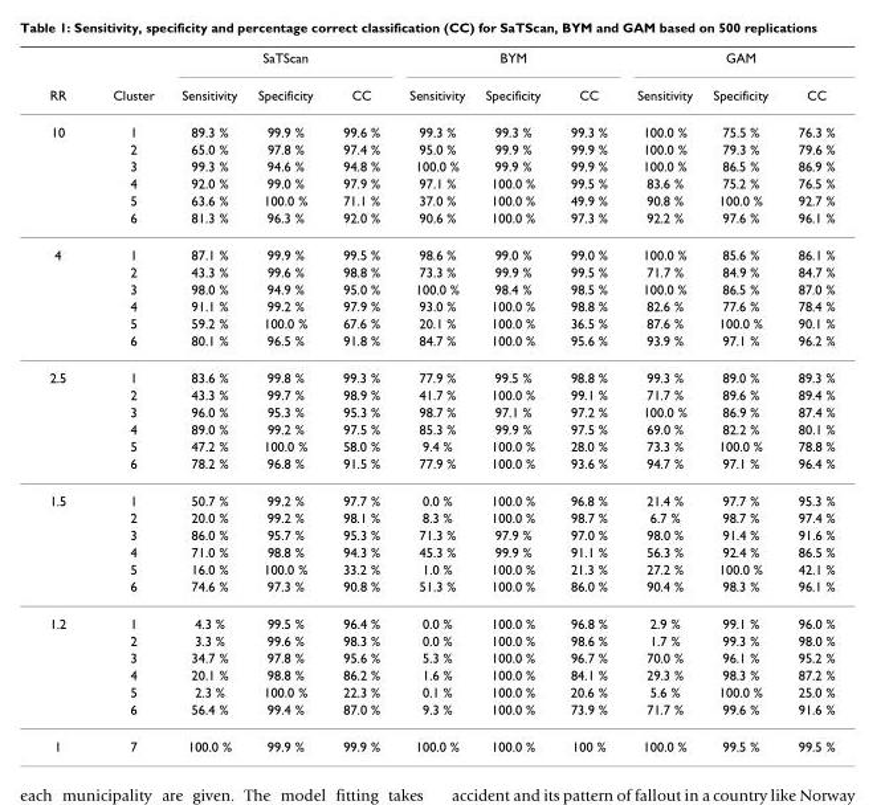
<table><thead><tr><td rowspan="2">RR</td><td rowspan="2">Cluster</td><td colspan="3">SaTScan</td><td colspan="3">BYM</td><td colspan="3">GAM</td></tr><tr><td>Sensitivity</td><td>Specificity</td><td>CC</td><td>Sensitivity</td><td>Specificity</td><td>CC</td><td>Sensitivity</td><td>Specificity</td><td>CC</td></tr></thead><tbody><tr><td rowspan="6">10</td><td>1</td><td>89.3 %</td><td>99.9 %</td><td>99.6 %</td><td>99.3 %</td><td>99.3 %</td><td>99.3 %</td><td>100.0 %</td><td>75.5 %</td><td>76.3 %</td></tr><tr><td>2</td><td>65.0 %</td><td>97.8 %</td><td>97.4 %</td><td>95.0 %</td><td>99.9 %</td><td>99.9 %</td><td>100.0 %</td><td>79.3 %</td><td>79.6 %</td></tr><tr><td>3</td><td>99.3 %</td><td>94.6 %</td><td>94.8 %</td><td>100.0 %</td><td>99.9 %</td><td>99.9 %</td><td>100.0 %</td><td>86.5 %</td><td>86.9 %</td></tr><tr><td>4</td><td>92.0 %</td><td>99.0 %</td><td>97.9 %</td><td>97.1 %</td><td>100.0 %</td><td>99.5 %</td><td>83.6 %</td><td>75.2 %</td><td>76.5 %</td></tr><tr><td>5</td><td>63.6 %</td><td>100.0 %</td><td>71.1 %</td><td>37.0 %</td><td>100.0 %</td><td>49.9 %</td><td>90.8 %</td><td>100.0 %</td><td>92.7 %</td></tr><tr><td>6</td><td>81.3 %</td><td>96.3 %</td><td>92.0 %</td><td>90.6 %</td><td>100.0 %</td><td>97.3 %</td><td>92.2 %</td><td>97.6 %</td><td>96.1 %</td></tr><tr><td rowspan="6">4</td><td>1</td><td>87.1 %</td><td>99.9 %</td><td>99.5 %</td><td>98.6 %</td><td>99.0 %</td><td>99.0 %</td><td>100.0 %</td><td>85.6 %</td><td>86.1 %</td></tr><tr><td>2</td><td>43.3 %</td><td>99.6 %</td><td>98.8 %</td><td>73.3 %</td><td>99.9 %</td><td>99.5 %</td><td>71.7 %</td><td>84.9 %</td><td>84.7 %</td></tr><tr><td>3</td><td>98.0 %</td><td>94.9 %</td><td>95.0 %</td><td>100.0 %</td><td>98.4 %</td><td>98.5 %</td><td>100.0 %</td><td>86.5 %</td><td>87.0 %</td></tr><tr><td>4</td><td>91.1 %</td><td>99.2 %</td><td>97.9 %</td><td>93.0 %</td><td>100.0 %</td><td>98.8 %</td><td>82.6 %</td><td>77.6 %</td><td>78.4 %</td></tr><tr><td>5</td><td>59.2 %</td><td>100.0 %</td><td>67.6 %</td><td>20.1 %</td><td>100.0 %</td><td>36.5 %</td><td>87.6 %</td><td>100.0 %</td><td>90.1 %</td></tr><tr><td>6</td><td>80.1 %</td><td>96.5 %</td><td>91.8 %</td><td>84.7 %</td><td>100.0 %</td><td>95.6 %</td><td>93.9 %</td><td>97.1 %</td><td>96.2 %</td></tr><tr><td rowspan="6">2.5</td><td>1</td><td>83.6 %</td><td>99.8 %</td><td>99.3 %</td><td>77.9 %</td><td>99.5 %</td><td>98.8 %</td><td>99.3 %</td><td>89.0 %</td><td>89.3 %</td></tr><tr><td>2</td><td>43.3 %</td><td>99.7 %</td><td>98.9 %</td><td>41.7 %</td><td>100.0 %</td><td>99.1 %</td><td>71.7 %</td><td>89.6 %</td><td>89.4 %</td></tr><tr><td>3</td><td>96.0 %</td><td>95.3 %</td><td>95.3 %</td><td>98.7 %</td><td>97.1 %</td><td>97.2 %</td><td>100.0 %</td><td>86.9 %</td><td>87.4 %</td></tr><tr><td>4</td><td>89.0 %</td><td>99.2 %</td><td>97.5 %</td><td>85.3 %</td><td>99.9 %</td><td>97.5 %</td><td>69.0 %</td><td>82.2 %</td><td>80.1 %</td></tr><tr><td>5</td><td>47.2 %</td><td>100.0 %</td><td>58.0 %</td><td>9.4 %</td><td>100.0 %</td><td>28.0 %</td><td>73.3 %</td><td>100.0 %</td><td>78.8 %</td></tr><tr><td>6</td><td>78.2 %</td><td>96.8 %</td><td>91.5 %</td><td>77.9 %</td><td>100.0 %</td><td>93.6 %</td><td>94.7 %</td><td>97.1 %</td><td>96.4 %</td></tr><tr><td rowspan="6">1.5</td><td>1</td><td>50.7 %</td><td>99.2 %</td><td>97.7 %</td><td>0.0 %</td><td>100.0 %</td><td>96.8 %</td><td>21.4 %</td><td>97.7 %</td><td>95.3 %</td></tr><tr><td>2</td><td>20.0 %</td><td>99.2 %</td><td>98.1 %</td><td>8.3 %</td><td>100.0 %</td><td>98.7 %</td><td>6.7 %</td><td>98.7 %</td><td>97.4 %</td></tr><tr><td>3</td><td>86.0 %</td><td>95.7 %</td><td>95.3 %</td><td>71.3 %</td><td>97.9 %</td><td>97.0 %</td><td>98.0 %</td><td>91.4 %</td><td>91.6 %</td></tr><tr><td>4</td><td>71.0 %</td><td>98.8 %</td><td>94.3 %</td><td>45.3 %</td><td>99.9 %</td><td>91.1 %</td><td>56.3 %</td><td>92.4 %</td><td>86.5 %</td></tr><tr><td>5</td><td>16.0 %</td><td>100.0 %</td><td>33.2 %</td><td>1.0 %</td><td>100.0 %</td><td>21.3 %</td><td>27.2 %</td><td>100.0 %</td><td>42.1 %</td></tr><tr><td>6</td><td>74.6 %</td><td>97.3 %</td><td>90.8 %</td><td>51.3 %</td><td>100.0 %</td><td>86.0 %</td><td>90.4 %</td><td>98.3 %</td><td>96.1 %</td></tr><tr><td rowspan="6">1.2</td><td>1</td><td>4.3 %</td><td>99.5 %</td><td>96.4 %</td><td>0.0 %</td><td>100.0 %</td><td>96.8 %</td><td>2.9 %</td><td>99.1 %</td><td>96.0 %</td></tr><tr><td>2</td><td>3.3 %</td><td>99.6 %</td><td>98.3 %</td><td>0.0 %</td><td>100.0 %</td><td>98.6 %</td><td>1.7 %</td><td>99.3 %</td><td>98.0 %</td></tr><tr><td>3</td><td>34.7 %</td><td>97.8 %</td><td>95.6 %</td><td>5.3 %</td><td>100.0 %</td><td>96.7 %</td><td>70.0 %</td><td>96.1 %</td><td>95.2 %</td></tr><tr><td>4</td><td>20.1 %</td><td>98.8 %</td><td>86.2 %</td><td>1.6 %</td><td>100.0 %</td><td>84.1 %</td><td>29.3 %</td><td>98.3 %</td><td>87.2 %</td></tr><tr><td>5</td><td>2.3 %</td><td>100.0 %</td><td>22.3 %</td><td>0.1 %</td><td>100.0 %</td><td>20.6 %</td><td>5.6 %</td><td>100.0 %</td><td>25.0 %</td></tr><tr><td>6</td><td>56.4 %</td><td>99.4 %</td><td>87.0 %</td><td>9.3 %</td><td>100.0 %</td><td>73.9 %</td><td>71.7 %</td><td>99.6 %</td><td>91.6 %</td></tr><tr><td>1</td><td>7</td><td>100.0 %</td><td>99.9 %</td><td>99.9 %</td><td>100.0 %</td><td>100.0 %</td><td>100 %</td><td>100.0 %</td><td>99.5 %</td><td>99.5 %</td></tr></tbody></table>